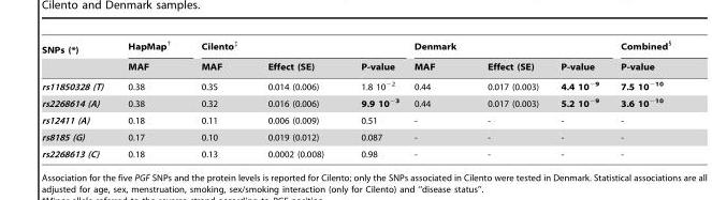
<table><thead><tr><td rowspan="2">SNPs (*)</td><td rowspan="2">HapMap† MAF</td><td colspan="3">Cilento‡</td><td colspan="3">Denmark</td><td rowspan="2">Combined§ P-value</td></tr><tr><td>MAF</td><td>Effect (SE)</td><td>P-value</td><td>MAF</td><td>Effect (SE)</td><td>P-value</td></tr></thead><tbody><tr><td>rs11850328 (T)</td><td>0.38</td><td>0.35</td><td>0.014 (0.006)</td><td>1.8 10<sup>−2</sup></td><td>0.44</td><td>0.017 (0.003)</td><td>4.4 10<sup>−9</sup></td><td>7.5 10<sup>−10</sup></td></tr><tr><td>rs2268614 (A)</td><td>0.38</td><td>0.32</td><td>0.016 (0.006)</td><td>9.9 10<sup>−3</sup></td><td>0.44</td><td>0.017 (0.003)</td><td>5.2 10<sup>−9</sup></td><td>3.6 10<sup>−10</sup></td></tr><tr><td>rs12411 (A)</td><td>0.18</td><td>0.11</td><td>0.006 (0.009)</td><td>0.51</td><td>-</td><td>-</td><td>-</td><td>-</td></tr><tr><td>rs8185 (G)</td><td>0.17</td><td>0.10</td><td>0.019 (0.012)</td><td>0.087</td><td>-</td><td>-</td><td>-</td><td>-</td></tr><tr><td>rs2268613 (C)</td><td>0.18</td><td>0.13</td><td>0.0002 (0.008)</td><td>0.98</td><td>-</td><td>-</td><td>-</td><td>-</td></tr></tbody></table>